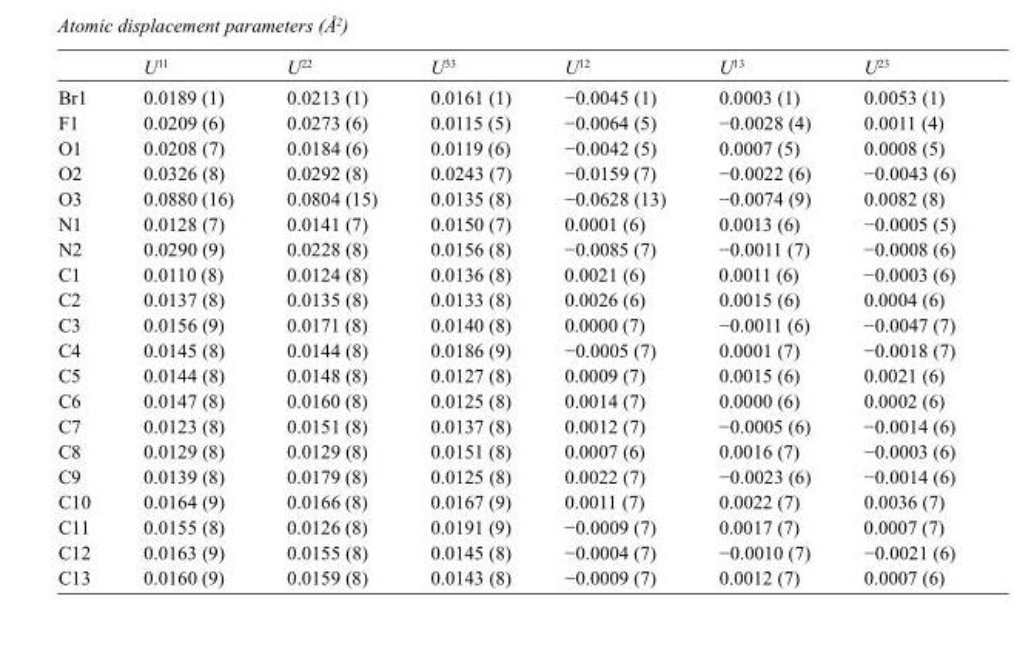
<table><thead><tr><td></td><td>U<sup>11</sup></td><td>U<sup>22</sup></td><td>U<sup>33</sup></td><td>U<sup>12</sup></td><td>U<sup>13</sup></td><td>U<sup>23</sup></td></tr></thead><tbody><tr><td>Br1</td><td>0.0189 (1)</td><td>0.0213 (1)</td><td>0.0161 (1)</td><td>−0.0045 (1)</td><td>0.0003 (1)</td><td>0.0053 (1)</td></tr><tr><td>F1</td><td>0.0209 (6)</td><td>0.0273 (6)</td><td>0.0115 (5)</td><td>−0.0064 (5)</td><td>−0.0028 (4)</td><td>0.0011 (4)</td></tr><tr><td>O1</td><td>0.0208 (7)</td><td>0.0184 (6)</td><td>0.0119 (6)</td><td>−0.0042 (5)</td><td>0.0007 (5)</td><td>0.0008 (5)</td></tr><tr><td>O2</td><td>0.0326 (8)</td><td>0.0292 (8)</td><td>0.0243 (7)</td><td>−0.0159 (7)</td><td>−0.0022 (6)</td><td>−0.0043 (6)</td></tr><tr><td>O3</td><td>0.0880 (16)</td><td>0.0804 (15)</td><td>0.0135 (8)</td><td>−0.0628 (13)</td><td>−0.0074 (9)</td><td>0.0082 (8)</td></tr><tr><td>N1</td><td>0.0128 (7)</td><td>0.0141 (7)</td><td>0.0150 (7)</td><td>0.0001 (6)</td><td>0.0013 (6)</td><td>−0.0005 (5)</td></tr><tr><td>N2</td><td>0.0290 (9)</td><td>0.0228 (8)</td><td>0.0156 (8)</td><td>−0.0085 (7)</td><td>−0.0011 (7)</td><td>−0.0008 (6)</td></tr><tr><td>C1</td><td>0.0110 (8)</td><td>0.0124 (8)</td><td>0.0136 (8)</td><td>0.0021 (6)</td><td>0.0011 (6)</td><td>−0.0003 (6)</td></tr><tr><td>C2</td><td>0.0137 (8)</td><td>0.0135 (8)</td><td>0.0133 (8)</td><td>0.0026 (6)</td><td>0.0015 (6)</td><td>0.0004 (6)</td></tr><tr><td>C3</td><td>0.0156 (9)</td><td>0.0171 (8)</td><td>0.0140 (8)</td><td>0.0000 (7)</td><td>−0.0011 (6)</td><td>−0.0047 (7)</td></tr><tr><td>C4</td><td>0.0145 (8)</td><td>0.0144 (8)</td><td>0.0186 (9)</td><td>−0.0005 (7)</td><td>0.0001 (7)</td><td>−0.0018 (7)</td></tr><tr><td>C5</td><td>0.0144 (8)</td><td>0.0148 (8)</td><td>0.0127 (8)</td><td>0.0009 (7)</td><td>0.0015 (6)</td><td>0.0021 (6)</td></tr><tr><td>C6</td><td>0.0147 (8)</td><td>0.0160 (8)</td><td>0.0125 (8)</td><td>0.0014 (7)</td><td>0.0000 (6)</td><td>0.0002 (6)</td></tr><tr><td>C7</td><td>0.0123 (8)</td><td>0.0151 (8)</td><td>0.0137 (8)</td><td>0.0012 (7)</td><td>−0.0005 (6)</td><td>−0.0014 (6)</td></tr><tr><td>C8</td><td>0.0129 (8)</td><td>0.0129 (8)</td><td>0.0151 (8)</td><td>0.0007 (6)</td><td>0.0016 (7)</td><td>−0.0003 (6)</td></tr><tr><td>C9</td><td>0.0139 (8)</td><td>0.0179 (8)</td><td>0.0125 (8)</td><td>0.0022 (7)</td><td>−0.0023 (6)</td><td>−0.0014 (6)</td></tr><tr><td>C10</td><td>0.0164 (9)</td><td>0.0166 (8)</td><td>0.0167 (9)</td><td>0.0011 (7)</td><td>0.0022 (7)</td><td>0.0036 (7)</td></tr><tr><td>C11</td><td>0.0155 (8)</td><td>0.0126 (8)</td><td>0.0191 (9)</td><td>−0.0009 (7)</td><td>0.0017 (7)</td><td>0.0007 (7)</td></tr><tr><td>C12</td><td>0.0163 (9)</td><td>0.0155 (8)</td><td>0.0145 (8)</td><td>−0.0004 (7)</td><td>−0.0010 (7)</td><td>−0.0021 (6)</td></tr><tr><td>C13</td><td>0.0160 (9)</td><td>0.0159 (8)</td><td>0.0143 (8)</td><td>−0.0009 (7)</td><td>0.0012 (7)</td><td>0.0007 (6)</td></tr></tbody></table>